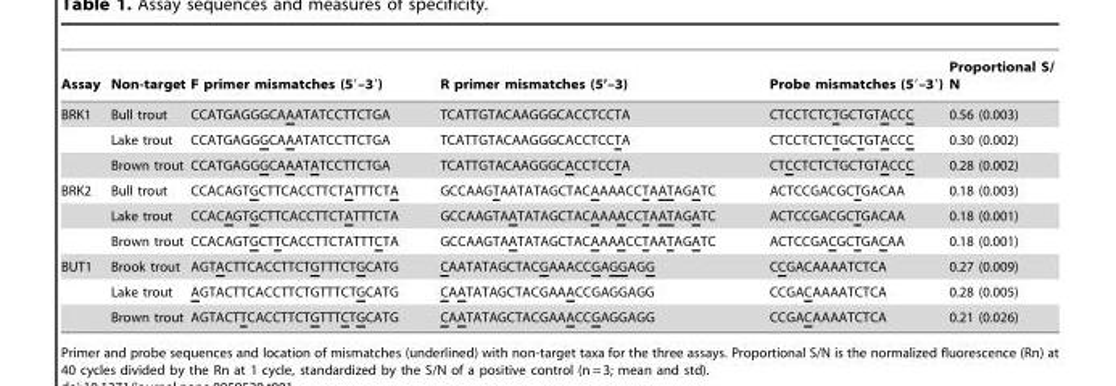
<table><thead><tr><td>Assay</td><td>Non-target</td><td>F primer mismatches (5′–3′)</td><td>R primer mismatches (5’–3)</td><td>Probe mismatches (5′–3′)</td><td>Proportional S/ N</td></tr></thead><tbody><tr><td rowspan="3">BRK1</td><td>Bull trout</td><td>CCATGAGGGCAAATATCCTTCTGA</td><td>TCATTGTACAAGGGCACCTCCTA</td><td>CTCCTCTCTGCTGTACCC</td><td>0.56 (0.003)</td></tr><tr><td>Lake trout</td><td>CCATGAGGGCAAATATCCTTCTGA</td><td>TCATTGTACAAGGGCACCTCCTA</td><td>CTCCTCTCTGCTGTACCC</td><td>0.30 (0.002)</td></tr><tr><td>Brown trout</td><td>CCATGAGGGCAAATATCCTTCTGA</td><td>TCATTGTACAAGGGCACCTCCTA</td><td>CTCCTCTCTGCTGTACCC</td><td>0.28 (0.002)</td></tr><tr><td rowspan="3">BRK2</td><td>Bull trout</td><td>CCACAGTGCTTCACCTTCTATTTCTA</td><td>GCCAAGTAATATAGCTACAAAACCTAATAGATC</td><td>ACTCCGACGCTGACAA</td><td>0.18 (0.003)</td></tr><tr><td>Lake trout</td><td>CCACAGTGCTTCACCTTCTATTTCTA</td><td>GCCAAGTAATATAGCTACAAAACCTAATAGATC</td><td>ACTCCGACGCTGACAA</td><td>0.18 (0.001)</td></tr><tr><td>Brown trout</td><td>CCACAGTGCTTCACCTTCTATTTCTA</td><td>GCCAAGTAATATAGCTACAAAACCTAATAGATC</td><td>ACTCCGACGCTGACAA</td><td>0.18 (0.001)</td></tr><tr><td rowspan="3">BUT1</td><td>Brook trout</td><td>AGTACTTCACCTTCTGTTTCTGCATG</td><td>CAATATAGCTACGAAACCGAGGAGG</td><td>CCGACAAAATCTCA</td><td>0.27 (0.009)</td></tr><tr><td>Lake trout</td><td>AGTACTTCACCTTCTGTTTCTGCATG</td><td>CAATATAGCTACGAAACCGAGGAGG</td><td>CCGACAAAATCTCA</td><td>0.28 (0.005)</td></tr><tr><td>Brown trout</td><td>AGTACTTCACCTTCTGTTTCTGCATG</td><td>CAATATAGCTACGAAACCGAGGAGG</td><td>CCGACAAAATCTCA</td><td>0.21 (0.026)</td></tr></tbody></table>